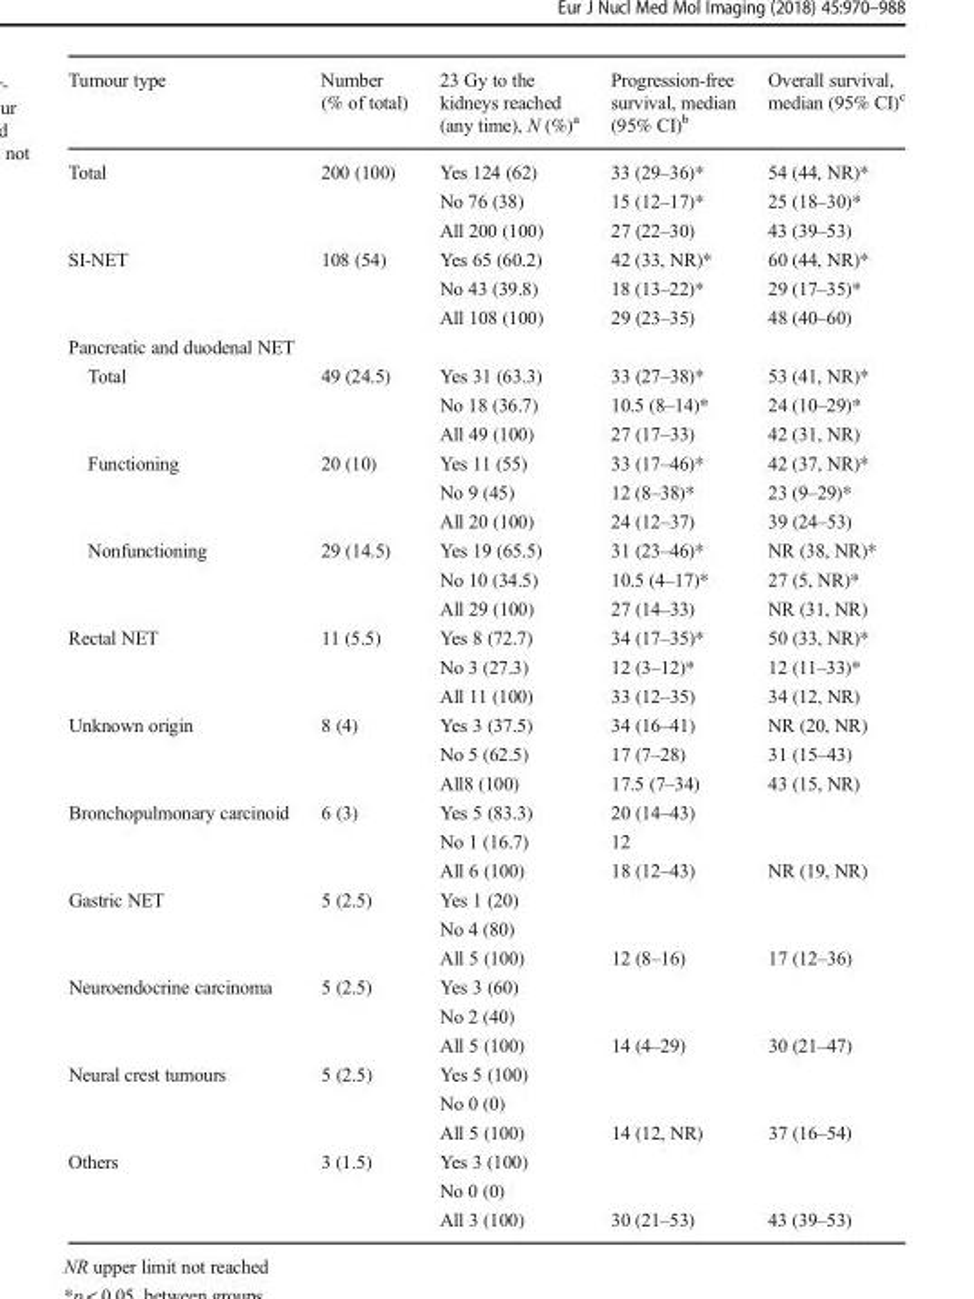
<table><thead><tr><td>Tumour type</td><td>Number (% of total)</td><td>23 Gy to the kidneys reached (any time), N (%)<sup>a</sup></td><td>Progression-free survival, median (95% CI)<sup>b</sup></td><td>Overall survival, median (95% CI)<sup>c</sup></td></tr></thead><tbody><tr><td rowspan="3">Total</td><td rowspan="3">200 (100)</td><td>Yes 124 (62)</td><td>33 (29–36)*</td><td>54 (44, NR)*</td></tr><tr><td>No 76 (38)</td><td>15 (12–17)*</td><td>25 (18–30)*</td></tr><tr><td>All 200 (100)</td><td>27 (22–30)</td><td>43 (39–53)</td></tr><tr><td rowspan="3">SI-NET</td><td rowspan="3">108 (54)</td><td>Yes 65 (60.2)</td><td>42 (33, NR)*</td><td>60 (44, NR)*</td></tr><tr><td>No 43 (39.8)</td><td>18 (13–22)*</td><td>29 (17–35)*</td></tr><tr><td>All 108 (100)</td><td>29 (23–35)</td><td>48 (40–60)</td></tr><tr><td colspan="5">Pancreatic and duodenal NET</td></tr><tr><td rowspan="3">Total</td><td rowspan="3">49 (24.5)</td><td>Yes 31 (63.3)</td><td>33 (27–38)*</td><td>53 (41, NR)*</td></tr><tr><td>No 18 (36.7)</td><td>10.5 (8–14)*</td><td>24 (10–29)*</td></tr><tr><td>All 49 (100)</td><td>27 (17–33)</td><td>42 (31, NR)</td></tr><tr><td rowspan="3">Functioning</td><td rowspan="3">20 (10)</td><td>Yes 11 (55)</td><td>33 (17–46)*</td><td>42 (37, NR)*</td></tr><tr><td>No 9 (45)</td><td>12 (8–38)*</td><td>23 (9–29)*</td></tr><tr><td>All 20 (100)</td><td>24 (12–37)</td><td>39 (24–53)</td></tr><tr><td rowspan="3">Nonfunctioning</td><td rowspan="3">29 (14.5)</td><td>Yes 19 (65.5)</td><td>31 (23–46)*</td><td>NR (38, NR)*</td></tr><tr><td>No 10 (34.5)</td><td>10.5 (4–17)*</td><td>27 (5, NR)*</td></tr><tr><td>All 29 (100)</td><td>27 (14–33)</td><td>NR (31, NR)</td></tr><tr><td rowspan="3">Rectal NET</td><td rowspan="3">11 (5.5)</td><td>Yes 8 (72.7)</td><td>34 (17–35)*</td><td>50 (33, NR)*</td></tr><tr><td>No 3 (27.3)</td><td>12 (3–12)*</td><td>12 (11–33)*</td></tr><tr><td>All 11 (100)</td><td>33 (12–35)</td><td>34 (12, NR)</td></tr><tr><td rowspan="3">Unknown origin</td><td rowspan="3">8 (4)</td><td>Yes 3 (37.5)</td><td>34 (16–41)</td><td>NR (20, NR)</td></tr><tr><td>No 5 (62.5)</td><td>17 (7–28)</td><td>31 (15–43)</td></tr><tr><td>All8 (100)</td><td>17.5 (7–34)</td><td>43 (15, NR)</td></tr><tr><td rowspan="3">Bronchopulmonary carcinoid</td><td rowspan="3">6 (3)</td><td>Yes 5 (83.3)</td><td>20 (14–43)</td><td></td></tr><tr><td>No 1 (16.7)</td><td>12</td><td></td></tr><tr><td>All 6 (100)</td><td>18 (12–43)</td><td>NR (19, NR)</td></tr><tr><td rowspan="3">Gastric NET</td><td rowspan="3">5 (2.5)</td><td>Yes 1 (20)</td><td></td><td></td></tr><tr><td>No 4 (80)</td><td></td><td></td></tr><tr><td>All 5 (100)</td><td>12 (8–16)</td><td>17 (12–36)</td></tr><tr><td rowspan="3">Neuroendocrine carcinoma</td><td rowspan="3">5 (2.5)</td><td>Yes 3 (60)</td><td></td><td></td></tr><tr><td>No 2 (40)</td><td></td><td></td></tr><tr><td>All 5 (100)</td><td>14 (4–29)</td><td>30 (21–47)</td></tr><tr><td rowspan="3">Neural crest tumours</td><td rowspan="3">5 (2.5)</td><td>Yes 5 (100)</td><td></td><td></td></tr><tr><td>No 0 (0)</td><td></td><td></td></tr><tr><td>All 5 (100)</td><td>14 (12, NR)</td><td>37 (16–54)</td></tr><tr><td rowspan="3">Others</td><td rowspan="3">3 (1.5)</td><td>Yes 3 (100)</td><td></td><td></td></tr><tr><td>No 0 (0)</td><td></td><td></td></tr><tr><td>All 3 (100)</td><td>30 (21–53)</td><td>43 (39–53)</td></tr></tbody></table>